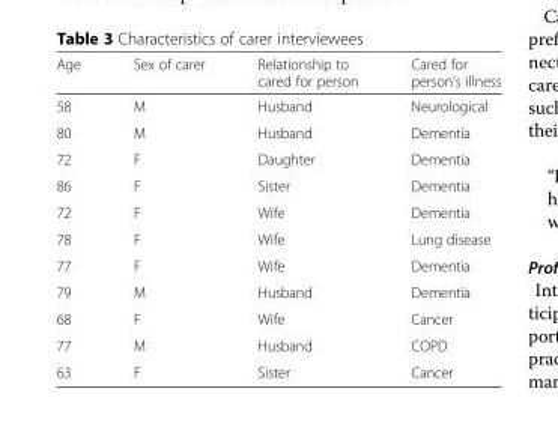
<table><thead><tr><td>Age</td><td>Sex of carer</td><td>Relationship to cared for person</td><td>Cared for person’s illness</td></tr></thead><tbody><tr><td>58</td><td>M</td><td>Husband</td><td>Neurological</td></tr><tr><td>80</td><td>M</td><td>Husband</td><td>Dementia</td></tr><tr><td>72</td><td>F</td><td>Daughter</td><td>Dementia</td></tr><tr><td>86</td><td>F</td><td>Sister</td><td>Dementia</td></tr><tr><td>72</td><td>F</td><td>Wife</td><td>Dementia</td></tr><tr><td>78</td><td>F</td><td>Wife</td><td>Lung disease</td></tr><tr><td>77</td><td>F</td><td>Wife</td><td>Dementia</td></tr><tr><td>79</td><td>M</td><td>Husband</td><td>Dementia</td></tr><tr><td>68</td><td>F</td><td>Wife</td><td>Cancer</td></tr><tr><td>77</td><td>M</td><td>Husband</td><td>COPD</td></tr><tr><td>63</td><td>F</td><td>Sister</td><td>Cancer</td></tr></tbody></table>